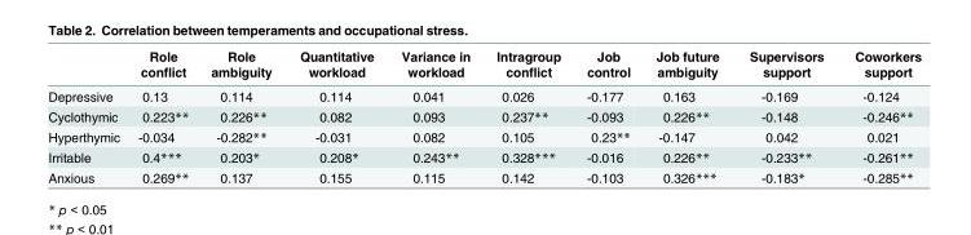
<table><thead><tr><td></td><td>Role conflict</td><td>Role ambiguity</td><td>Quantitative workload</td><td>Variance in workload</td><td>Intragroup conflict</td><td>Job control</td><td>Job future ambiguity</td><td>Supervisors support</td><td>Coworkers support</td></tr></thead><tbody><tr><td>Depressive</td><td>0.13</td><td>0.114</td><td>0.114</td><td>0.041</td><td>0.026</td><td>-0.177</td><td>0.163</td><td>-0.169</td><td>-0.124</td></tr><tr><td>Cyclothymic</td><td>0.223**</td><td>0.226**</td><td>0.082</td><td>0.093</td><td>0.237**</td><td>-0.093</td><td>0.226**</td><td>-0.148</td><td>-0.246**</td></tr><tr><td>Hyperthymic</td><td>-0.034</td><td>-0.282**</td><td>-0.031</td><td>0.082</td><td>0.105</td><td>0.23**</td><td>-0.147</td><td>0.042</td><td>0.021</td></tr><tr><td>Irritable</td><td>0.4***</td><td>0.203*</td><td>0.208*</td><td>0.243**</td><td>0.328***</td><td>-0.016</td><td>0.226**</td><td>-0.233**</td><td>-0.261**</td></tr><tr><td>Anxious</td><td>0.269**</td><td>0.137</td><td>0.155</td><td>0.115</td><td>0.142</td><td>-0.103</td><td>0.326***</td><td>-0.183*</td><td>-0.285**</td></tr></tbody></table>